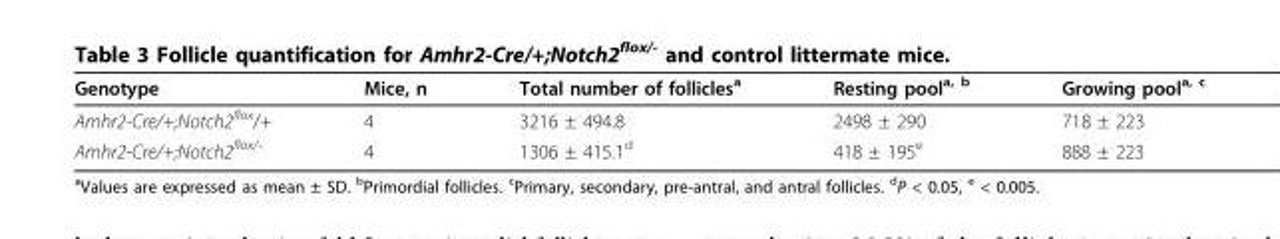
<table><thead><tr><td>Genotype</td><td>Mice, n</td><td>Total number of follicles<sup>a</sup></td><td>Resting pool<sup>a, b</sup></td><td>Growing pool<sup>a, c</sup></td></tr></thead><tbody><tr><td>Amhr2-Cre/+;Notch2<sup>flox</sup>/+</td><td>4</td><td>3216 ± 494.8</td><td>2498 ± 290</td><td>718 ± 223</td></tr><tr><td>Amhr2-Cre/+;Notch2<sup>flox/-</sup></td><td>4</td><td>1306 ± 415.1<sup>d</sup></td><td>418 ± 195<sup>e</sup></td><td>888 ± 223</td></tr></tbody></table>